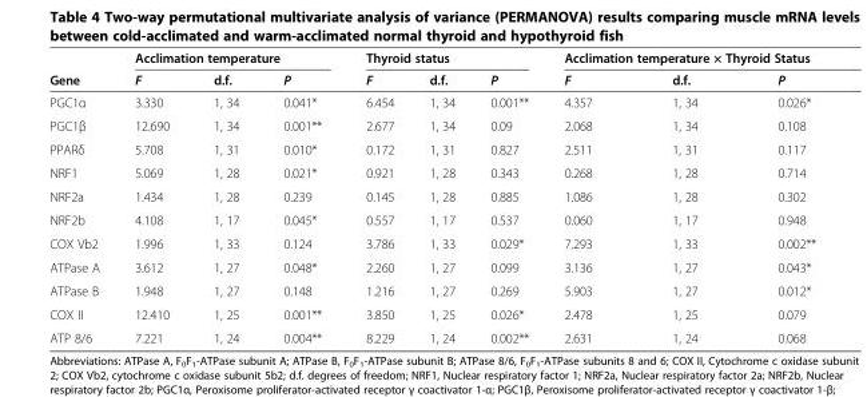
<table><thead><tr><td rowspan="2">Gene</td><td colspan="3">Acclimation temperature</td><td colspan="3">Thyroid status</td><td colspan="3">Acclimation temperature × Thyroid Status</td></tr><tr><td>F</td><td>d.f.</td><td>P</td><td>F</td><td>d.f.</td><td>P</td><td>F</td><td>d.f.</td><td>P</td></tr></thead><tbody><tr><td>PGC1α</td><td>3.330</td><td>1, 34</td><td>0.041*</td><td>6.454</td><td>1, 34</td><td>0.001**</td><td>4.357</td><td>1, 34</td><td>0.026*</td></tr><tr><td>PGC1β</td><td>12.690</td><td>1, 34</td><td>0.001**</td><td>2.677</td><td>1, 34</td><td>0.09</td><td>2.068</td><td>1, 34</td><td>0.108</td></tr><tr><td>PPARδ</td><td>5.708</td><td>1, 31</td><td>0.010*</td><td>0.172</td><td>1, 31</td><td>0.827</td><td>2.511</td><td>1, 31</td><td>0.117</td></tr><tr><td>NRF1</td><td>5.069</td><td>1, 28</td><td>0.021*</td><td>0.921</td><td>1, 28</td><td>0.343</td><td>0.268</td><td>1, 28</td><td>0.714</td></tr><tr><td>NRF2a</td><td>1.434</td><td>1, 28</td><td>0.239</td><td>0.145</td><td>1, 28</td><td>0.885</td><td>1.086</td><td>1, 28</td><td>0.302</td></tr><tr><td>NRF2b</td><td>4.108</td><td>1, 17</td><td>0.045*</td><td>0.557</td><td>1, 17</td><td>0.537</td><td>0.060</td><td>1, 17</td><td>0.948</td></tr><tr><td>COX Vb2</td><td>1.996</td><td>1, 33</td><td>0.124</td><td>3.786</td><td>1, 33</td><td>0.029*</td><td>7.293</td><td>1, 33</td><td>0.002**</td></tr><tr><td>ATPase A</td><td>3.612</td><td>1, 27</td><td>0.048*</td><td>2.260</td><td>1, 27</td><td>0.099</td><td>3.136</td><td>1, 27</td><td>0.043*</td></tr><tr><td>ATPase B</td><td>1.948</td><td>1, 27</td><td>0.148</td><td>1.216</td><td>1, 27</td><td>0.269</td><td>5.903</td><td>1, 27</td><td>0.012*</td></tr><tr><td>COX II</td><td>12.410</td><td>1, 25</td><td>0.001**</td><td>3.850</td><td>1, 25</td><td>0.026*</td><td>2.478</td><td>1, 25</td><td>0.079</td></tr><tr><td>ATP 8/6</td><td>7.221</td><td>1, 24</td><td>0.004**</td><td>8.229</td><td>1, 24</td><td>0.002**</td><td>2.631</td><td>1, 24</td><td>0.068</td></tr></tbody></table>